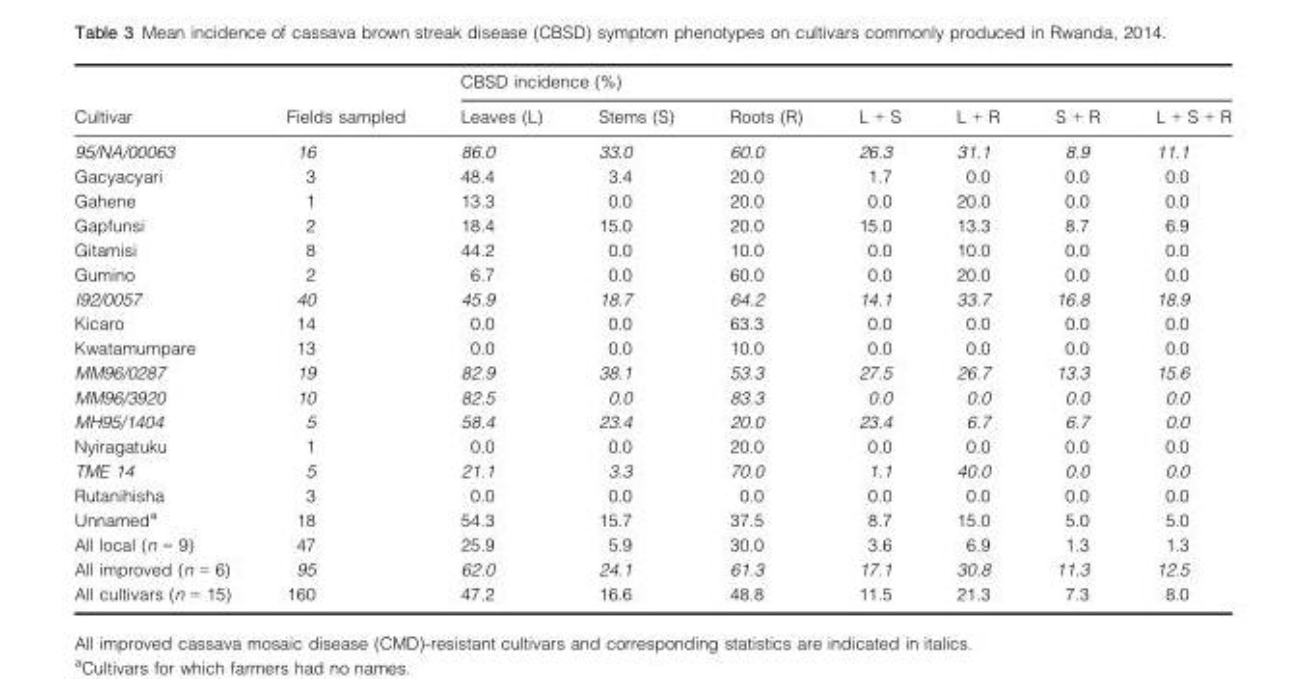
<table><thead><tr><td rowspan="2">Cultivar</td><td rowspan="2">Fields sampled</td><td colspan="7">CBSD incidence (%)</td></tr><tr><td>Leaves (L)</td><td>Stems (S)</td><td>Roots (R)</td><td>L + S</td><td>L + R</td><td>S + R</td><td>L + S + R</td></tr></thead><tbody><tr><td>95/NA/00063</td><td>16</td><td>86.0</td><td>33.0</td><td>60.0</td><td>26.3</td><td>31.1</td><td>8.9</td><td>11.1</td></tr><tr><td>Gacyacyari</td><td>3</td><td>48.4</td><td>3.4</td><td>20.0</td><td>1.7</td><td>0.0</td><td>0.0</td><td>0.0</td></tr><tr><td>Gahene</td><td>1</td><td>13.3</td><td>0.0</td><td>20.0</td><td>0.0</td><td>20.0</td><td>0.0</td><td>0.0</td></tr><tr><td>Gapfunsi</td><td>2</td><td>18.4</td><td>15.0</td><td>20.0</td><td>15.0</td><td>13.3</td><td>8.7</td><td>6.9</td></tr><tr><td>Gitamisi</td><td>8</td><td>44.2</td><td>0.0</td><td>10.0</td><td>0.0</td><td>10.0</td><td>0.0</td><td>0.0</td></tr><tr><td>Gumino</td><td>2</td><td>6.7</td><td>0.0</td><td>60.0</td><td>0.0</td><td>20.0</td><td>0.0</td><td>0.0</td></tr><tr><td>I92/0057</td><td>40</td><td>45.9</td><td>18.7</td><td>64.2</td><td>14.1</td><td>33.7</td><td>16.8</td><td>18.9</td></tr><tr><td>Kicaro</td><td>14</td><td>0.0</td><td>0.0</td><td>63.3</td><td>0.0</td><td>0.0</td><td>0.0</td><td>0.0</td></tr><tr><td>Kwatamumpare</td><td>13</td><td>0.0</td><td>0.0</td><td>10.0</td><td>0.0</td><td>0.0</td><td>0.0</td><td>0.0</td></tr><tr><td>MM96/0287</td><td>19</td><td>82.9</td><td>38.1</td><td>53.3</td><td>27.5</td><td>26.7</td><td>13.3</td><td>15.6</td></tr><tr><td>MM96/3920</td><td>10</td><td>82.5</td><td>0.0</td><td>83.3</td><td>0.0</td><td>0.0</td><td>0.0</td><td>0.0</td></tr><tr><td>MH95/1404</td><td>5</td><td>58.4</td><td>23.4</td><td>20.0</td><td>23.4</td><td>6.7</td><td>6.7</td><td>0.0</td></tr><tr><td>Nyiragatuku</td><td>1</td><td>0.0</td><td>0.0</td><td>20.0</td><td>0.0</td><td>0.0</td><td>0.0</td><td>0.0</td></tr><tr><td>TME 14</td><td>5</td><td>21.1</td><td>3.3</td><td>70.0</td><td>1.1</td><td>40.0</td><td>0.0</td><td>0.0</td></tr><tr><td>Rutanihisha</td><td>3</td><td>0.0</td><td>0.0</td><td>0.0</td><td>0.0</td><td>0.0</td><td>0.0</td><td>0.0</td></tr><tr><td>Unnamed<sup>a</sup></td><td>18</td><td>54.3</td><td>15.7</td><td>37.5</td><td>8.7</td><td>15.0</td><td>5.0</td><td>5.0</td></tr><tr><td>All local (n = 9)</td><td>47</td><td>25.9</td><td>5.9</td><td>30.0</td><td>3.6</td><td>6.9</td><td>1.3</td><td>1.3</td></tr><tr><td>All improved (n = 6)</td><td>95</td><td>62.0</td><td>24.1</td><td>61.3</td><td>17.1</td><td>30.8</td><td>11.3</td><td>12.5</td></tr><tr><td>All cultivars (n = 15)</td><td>160</td><td>47.2</td><td>16.6</td><td>48.8</td><td>11.5</td><td>21.3</td><td>7.3</td><td>8.0</td></tr></tbody></table>